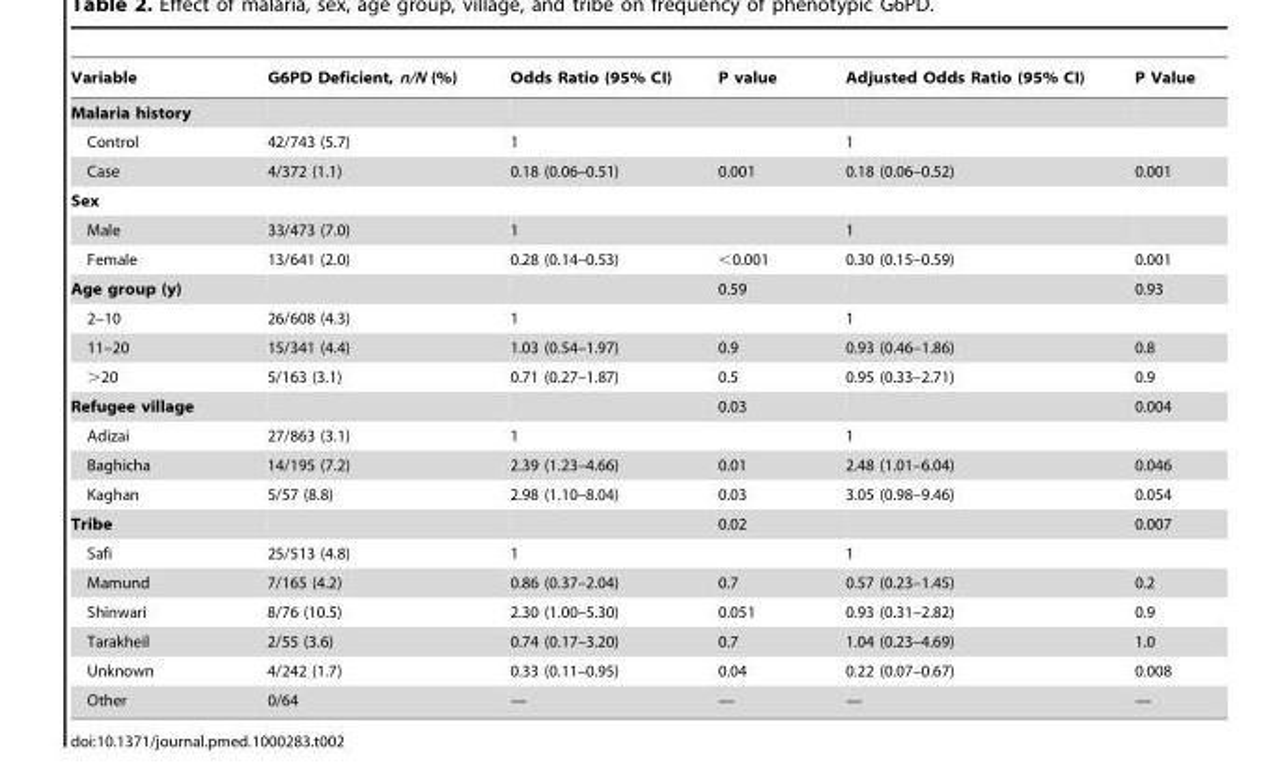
<table><thead><tr><td>Variable</td><td>G6PD Deficient, n/N (%)</td><td>Odds Ratio (95% CI)</td><td>P value</td><td>Adjusted Odds Ratio (95% CI)</td><td>P Value</td></tr></thead><tbody><tr><td colspan="6">Malaria history</td></tr><tr><td>Control</td><td>42/743 (5.7)</td><td>1</td><td></td><td>1</td><td></td></tr><tr><td>Case</td><td>4/372 (1.1)</td><td>0.18 (0.06–0.51)</td><td>0.001</td><td>0.18 (0.06–0.52)</td><td>0.001</td></tr><tr><td colspan="6">Sex</td></tr><tr><td>Male</td><td>33/473 (7.0)</td><td>1</td><td></td><td>1</td><td></td></tr><tr><td>Female</td><td>13/641 (2.0)</td><td>0.28 (0.14–0.53)</td><td>&lt;0.001</td><td>0.30 (0.15–0.59)</td><td>0.001</td></tr><tr><td>Age group (y)</td><td></td><td></td><td>0.59</td><td></td><td>0.93</td></tr><tr><td>2–10</td><td>26/608 (4.3)</td><td>1</td><td></td><td>1</td><td></td></tr><tr><td>11–20</td><td>15/341 (4.4)</td><td>1.03 (0.54–1.97)</td><td>0.9</td><td>0.93 (0.46–1.86)</td><td>0.8</td></tr><tr><td>&gt;20</td><td>5/163 (3.1)</td><td>0.71 (0.27–1.87)</td><td>0.5</td><td>0.95 (0.33–2.71)</td><td>0.9</td></tr><tr><td>Refugee village</td><td></td><td></td><td>0.03</td><td></td><td>0.004</td></tr><tr><td>Adizai</td><td>27/863 (3.1)</td><td>1</td><td></td><td>1</td><td></td></tr><tr><td>Baghicha</td><td>14/195 (7.2)</td><td>2.39 (1.23–4.66)</td><td>0.01</td><td>2.48 (1.01–6.04)</td><td>0.046</td></tr><tr><td>Kaghan</td><td>5/57 (8.8)</td><td>2.98 (1.10–8.04)</td><td>0.03</td><td>3.05 (0.98–9.46)</td><td>0.054</td></tr><tr><td>Tribe</td><td></td><td></td><td>0.02</td><td></td><td>0.007</td></tr><tr><td>Safi</td><td>25/513 (4.8)</td><td>1</td><td></td><td>1</td><td></td></tr><tr><td>Mamund</td><td>7/165 (4.2)</td><td>0.86 (0.37–2.04)</td><td>0.7</td><td>0.57 (0.23–1.45)</td><td>0.2</td></tr><tr><td>Shinwari</td><td>8/76 (10.5)</td><td>2.30 (1.00–5.30)</td><td>0.051</td><td>0.93 (0.31–2.82)</td><td>0.9</td></tr><tr><td>Tarakheil</td><td>2/55 (3.6)</td><td>0.74 (0.17–3.20)</td><td>0.7</td><td>1.04 (0.23–4.69)</td><td>1.0</td></tr><tr><td>Unknown</td><td>4/242 (1.7)</td><td>0.33 (0.11–0.95)</td><td>0.04</td><td>0.22 (0.07–0.67)</td><td>0.008</td></tr><tr><td>Other</td><td>0/64</td><td>—</td><td>—</td><td>—</td><td>—</td></tr></tbody></table>